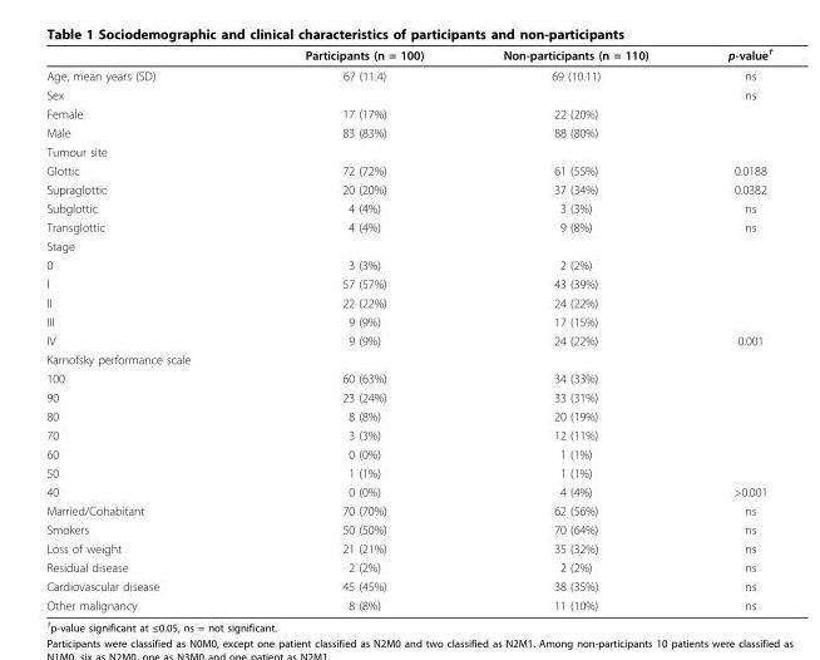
<table><thead><tr><td></td><td>Participants (n = 100)</td><td>Non-participants (n = 110)</td><td>p-value<sup>†</sup></td></tr></thead><tbody><tr><td>Age, mean years (SD)</td><td>67 (11.4)</td><td>69 (10.11)</td><td>ns</td></tr><tr><td>Sex</td><td></td><td></td><td>ns</td></tr><tr><td>Female</td><td>17 (17%)</td><td>22 (20%)</td><td></td></tr><tr><td>Male</td><td>83 (83%)</td><td>88 (80%)</td><td></td></tr><tr><td colspan="4">Tumour site</td></tr><tr><td>Glottic</td><td>72 (72%)</td><td>61 (55%)</td><td>0.0188</td></tr><tr><td>Supraglottic</td><td>20 (20%)</td><td>37 (34%)</td><td>0.0382</td></tr><tr><td>Subglottic</td><td>4 (4%)</td><td>3 (3%)</td><td>ns</td></tr><tr><td>Transglottic</td><td>4 (4%)</td><td>9 (8%)</td><td>ns</td></tr><tr><td colspan="4">Stage</td></tr><tr><td>0</td><td>3 (3%)</td><td>2 (2%)</td><td></td></tr><tr><td>I</td><td>57 (57%)</td><td>43 (39%)</td><td></td></tr><tr><td>II</td><td>22 (22%)</td><td>24 (22%)</td><td></td></tr><tr><td>III</td><td>9 (9%)</td><td>17 (15%)</td><td></td></tr><tr><td>IV</td><td>9 (9%)</td><td>24 (22%)</td><td>0.001</td></tr><tr><td colspan="4">Karnofsky performance scale</td></tr><tr><td>100</td><td>60 (63%)</td><td>34 (33%)</td><td></td></tr><tr><td>90</td><td>23 (24%)</td><td>33 (31%)</td><td></td></tr><tr><td>80</td><td>8 (8%)</td><td>20 (19%)</td><td></td></tr><tr><td>70</td><td>3 (3%)</td><td>12 (11%)</td><td></td></tr><tr><td>60</td><td>0 (0%)</td><td>1 (1%)</td><td></td></tr><tr><td>50</td><td>1 (1%)</td><td>1 (1%)</td><td></td></tr><tr><td>40</td><td>0 (0%)</td><td>4 (4%)</td><td>&gt;0.001</td></tr><tr><td>Married/Cohabitant</td><td>70 (70%)</td><td>62 (56%)</td><td>ns</td></tr><tr><td>Smokers</td><td>50 (50%)</td><td>70 (64%)</td><td>ns</td></tr><tr><td>Loss of weight</td><td>21 (21%)</td><td>35 (32%)</td><td>ns</td></tr><tr><td>Residual disease</td><td>2 (2%)</td><td>2 (2%)</td><td>ns</td></tr><tr><td>Cardiovascular disease</td><td>45 (45%)</td><td>38 (35%)</td><td>ns</td></tr><tr><td>Other malignancy</td><td>8 (8%)</td><td>11 (10%)</td><td>ns</td></tr></tbody></table>